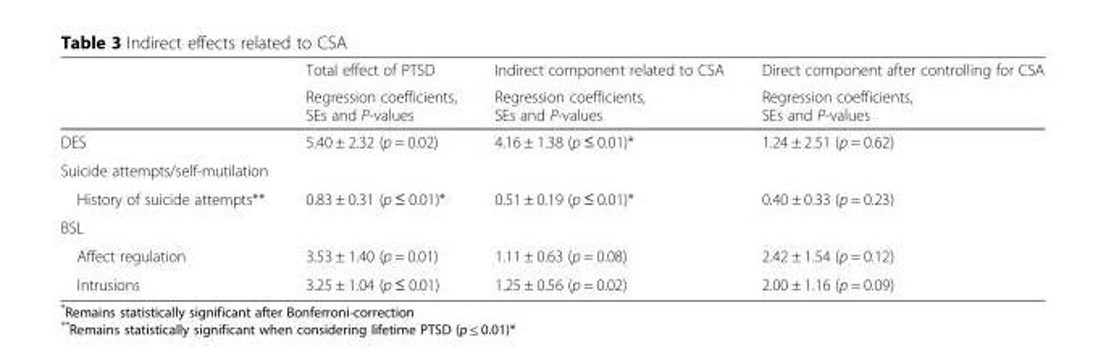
<table><thead><tr><td rowspan="2"></td><td rowspan="2">Total effect of PTSD Regression coefficients, SEs and P-values</td><td rowspan="2">Indirect component related to CSA Regression coefficients, SEs and P-values</td><td rowspan="2">Direct component after controlling for CSA Regression coefficients, SEs and P-values</td></tr><tr></tr></thead><tbody><tr><td>DES</td><td>5.40 ± 2.32 (p = 0.02)</td><td>4.16 ± 1.38 (p ≤ 0.01)*</td><td>1.24 ± 2.51 (p = 0.62)</td></tr><tr><td colspan="4">Suicide attempts/self-mutilation</td></tr><tr><td>History of suicide attempts**</td><td>0.83 ± 0.31 (p ≤ 0.01)*</td><td>0.51 ± 0.19 (p ≤ 0.01)*</td><td>0.40 ± 0.33 (p = 0.23)</td></tr><tr><td colspan="4">BSL</td></tr><tr><td>Affect regulation</td><td>3.53 ± 1.40 (p = 0.01)</td><td>1.11 ± 0.63 (p = 0.08)</td><td>2.42 ± 1.54 (p = 0.12)</td></tr><tr><td>Intrusions</td><td>3.25 ± 1.04 (p ≤ 0.01)</td><td>1.25 ± 0.56 (p = 0.02)</td><td>2.00 ± 1.16 (p = 0.09)</td></tr></tbody></table>